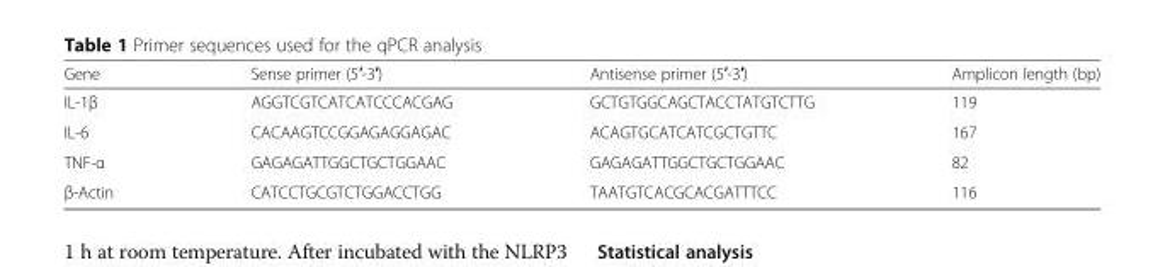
<table><thead><tr><td>Gene</td><td>Sense primer (5′-3′)</td><td>Antisense primer (5′-3′)</td><td>Amplicon length (bp)</td></tr></thead><tbody><tr><td>IL-1β</td><td>AGGTCGTCATCATCCCACGAG</td><td>GCTGTGGCAGCTACCTATGTCTTG</td><td>119</td></tr><tr><td>IL-6</td><td>CACAAGTCCGGAGAGGAGAC</td><td>ACAGTGCATCATCGCTGTTC</td><td>167</td></tr><tr><td>TNF-α</td><td>GAGAGATTGGCTGCTGGAAC</td><td>GAGAGATTGGCTGCTGGAAC</td><td>82</td></tr><tr><td>β-Actin</td><td>CATCCTGCGTCTGGACCTGG</td><td>TAATGTCACGCACGATTTCC</td><td>116</td></tr></tbody></table>